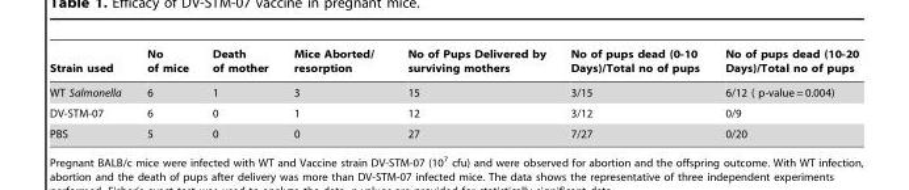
<table><thead><tr><td>Strain used</td><td>No of mice</td><td>Death of mother</td><td>Mice Aborted/ resorption</td><td>No of Pups Delivered by surviving mothers</td><td>No of pups dead (0-10 Days)/Total no of pups</td><td>No of pups dead (10-20 Days)/Total no of pups</td></tr></thead><tbody><tr><td>WT Salmonella</td><td>6</td><td>1</td><td>3</td><td>15</td><td>3/15</td><td>6/12 ( p-value = 0.004)</td></tr><tr><td>DV-STM-07</td><td>6</td><td>0</td><td>1</td><td>12</td><td>3/12</td><td>0/9</td></tr><tr><td>PBS</td><td>5</td><td>0</td><td>0</td><td>27</td><td>7/27</td><td>0/20</td></tr></tbody></table>